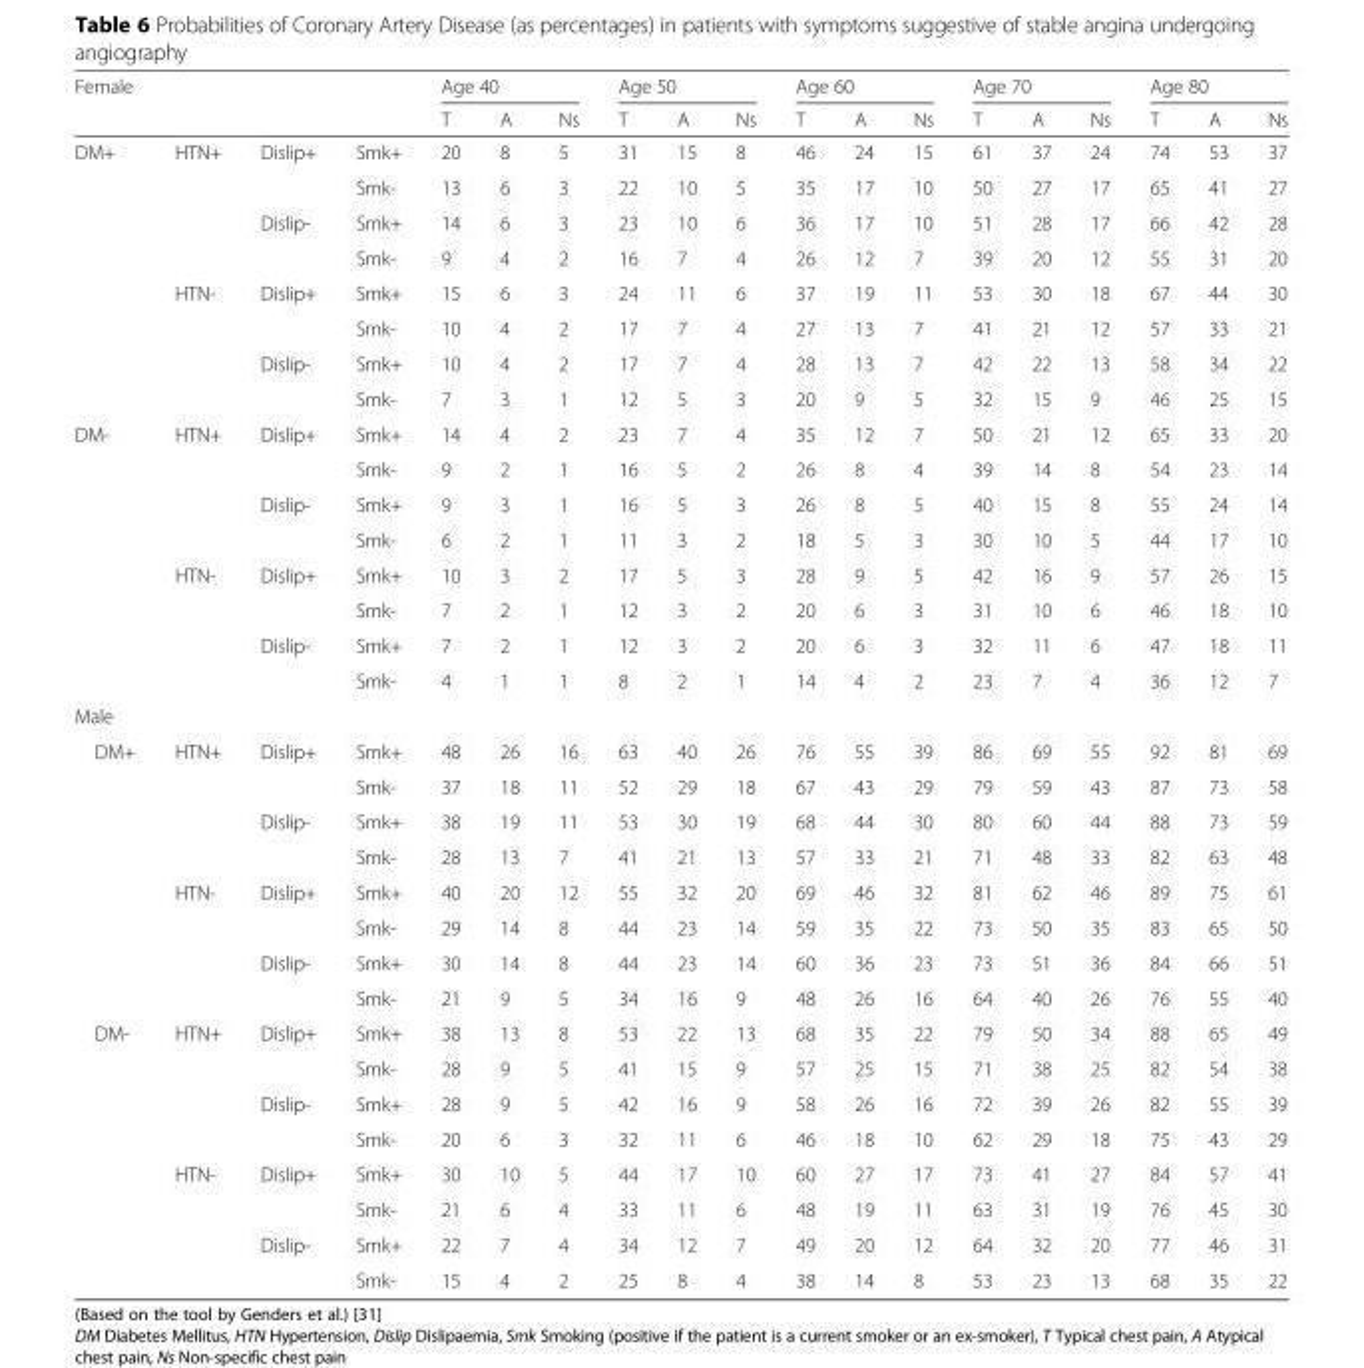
<table><thead><tr><td colspan="4">Female</td><td colspan="3">Age 40</td><td colspan="3">Age 50</td><td colspan="3">Age 60</td><td colspan="3">Age 70</td><td colspan="3">Age 80</td></tr><tr><td></td><td></td><td></td><td></td><td>T</td><td>A</td><td>Ns</td><td>T</td><td>A</td><td>Ns</td><td>T</td><td>A</td><td>Ns</td><td>T</td><td>A</td><td>Ns</td><td>T</td><td>A</td><td>Ns</td></tr></thead><tbody><tr><td rowspan="8">DM+</td><td rowspan="4">HTN+</td><td rowspan="2">Dislip+</td><td>Smk+</td><td>20</td><td>8</td><td>5</td><td>31</td><td>15</td><td>8</td><td>46</td><td>24</td><td>15</td><td>61</td><td>37</td><td>24</td><td>74</td><td>53</td><td>37</td></tr><tr><td>Smk-</td><td>13</td><td>6</td><td>3</td><td>22</td><td>10</td><td>5</td><td>35</td><td>17</td><td>10</td><td>50</td><td>27</td><td>17</td><td>65</td><td>41</td><td>27</td></tr><tr><td rowspan="2">Dislip-</td><td>Smk+</td><td>14</td><td>6</td><td>3</td><td>23</td><td>10</td><td>6</td><td>36</td><td>17</td><td>10</td><td>51</td><td>28</td><td>17</td><td>66</td><td>42</td><td>28</td></tr><tr><td>Smk-</td><td>9</td><td>4</td><td>2</td><td>16</td><td>7</td><td>4</td><td>26</td><td>12</td><td>7</td><td>39</td><td>20</td><td>12</td><td>55</td><td>31</td><td>20</td></tr><tr><td rowspan="4">HTN-</td><td rowspan="2">Dislip+</td><td>Smk+</td><td>15</td><td>6</td><td>3</td><td>24</td><td>11</td><td>6</td><td>37</td><td>19</td><td>11</td><td>53</td><td>30</td><td>18</td><td>67</td><td>44</td><td>30</td></tr><tr><td>Smk-</td><td>10</td><td>4</td><td>2</td><td>17</td><td>7</td><td>4</td><td>27</td><td>13</td><td>7</td><td>41</td><td>21</td><td>12</td><td>57</td><td>33</td><td>21</td></tr><tr><td rowspan="2">Dislip-</td><td>Smk+</td><td>10</td><td>4</td><td>2</td><td>17</td><td>7</td><td>4</td><td>28</td><td>13</td><td>7</td><td>42</td><td>22</td><td>13</td><td>58</td><td>34</td><td>22</td></tr><tr><td>Smk-</td><td>7</td><td>3</td><td>1</td><td>12</td><td>5</td><td>3</td><td>20</td><td>9</td><td>5</td><td>32</td><td>15</td><td>9</td><td>46</td><td>25</td><td>15</td></tr><tr><td rowspan="8">DM-</td><td rowspan="4">HTN+</td><td rowspan="2">Dislip+</td><td>Smk+</td><td>14</td><td>4</td><td>2</td><td>23</td><td>7</td><td>4</td><td>35</td><td>12</td><td>7</td><td>50</td><td>21</td><td>12</td><td>65</td><td>33</td><td>20</td></tr><tr><td>Smk-</td><td>9</td><td>2</td><td>1</td><td>16</td><td>5</td><td>2</td><td>26</td><td>8</td><td>4</td><td>39</td><td>14</td><td>8</td><td>54</td><td>23</td><td>14</td></tr><tr><td rowspan="2">Dislip-</td><td>Smk+</td><td>9</td><td>3</td><td>1</td><td>16</td><td>5</td><td>3</td><td>26</td><td>8</td><td>5</td><td>40</td><td>15</td><td>8</td><td>55</td><td>24</td><td>14</td></tr><tr><td>Smk-</td><td>6</td><td>2</td><td>1</td><td>11</td><td>3</td><td>2</td><td>18</td><td>5</td><td>3</td><td>30</td><td>10</td><td>5</td><td>44</td><td>17</td><td>10</td></tr><tr><td rowspan="4">HTN-</td><td rowspan="2">Dislip+</td><td>Smk+</td><td>10</td><td>3</td><td>2</td><td>17</td><td>5</td><td>3</td><td>28</td><td>9</td><td>5</td><td>42</td><td>16</td><td>9</td><td>57</td><td>26</td><td>15</td></tr><tr><td>Smk-</td><td>7</td><td>2</td><td>1</td><td>12</td><td>3</td><td>2</td><td>20</td><td>6</td><td>3</td><td>31</td><td>10</td><td>6</td><td>46</td><td>18</td><td>10</td></tr><tr><td rowspan="2">Dislip-</td><td>Smk+</td><td>7</td><td>2</td><td>1</td><td>12</td><td>3</td><td>2</td><td>20</td><td>6</td><td>3</td><td>32</td><td>11</td><td>6</td><td>47</td><td>18</td><td>11</td></tr><tr><td>Smk-</td><td>4</td><td>1</td><td>1</td><td>8</td><td>2</td><td>1</td><td>14</td><td>4</td><td>2</td><td>23</td><td>7</td><td>4</td><td>36</td><td>12</td><td>7</td></tr><tr><td colspan="19">Male</td></tr><tr><td rowspan="8">DM+</td><td rowspan="4">HTN+</td><td rowspan="2">Dislip+</td><td>Smk+</td><td>48</td><td>26</td><td>16</td><td>63</td><td>40</td><td>26</td><td>76</td><td>55</td><td>39</td><td>86</td><td>69</td><td>55</td><td>92</td><td>81</td><td>69</td></tr><tr><td>Smk-</td><td>37</td><td>18</td><td>11</td><td>52</td><td>29</td><td>18</td><td>67</td><td>43</td><td>29</td><td>79</td><td>59</td><td>43</td><td>87</td><td>73</td><td>58</td></tr><tr><td rowspan="2">Dislip-</td><td>Smk+</td><td>38</td><td>19</td><td>11</td><td>53</td><td>30</td><td>19</td><td>68</td><td>44</td><td>30</td><td>80</td><td>60</td><td>44</td><td>88</td><td>73</td><td>59</td></tr><tr><td>Smk-</td><td>28</td><td>13</td><td>7</td><td>41</td><td>21</td><td>13</td><td>57</td><td>33</td><td>21</td><td>71</td><td>48</td><td>33</td><td>82</td><td>63</td><td>48</td></tr><tr><td rowspan="4">HTN-</td><td rowspan="2">Dislip+</td><td>Smk+</td><td>40</td><td>20</td><td>12</td><td>55</td><td>32</td><td>20</td><td>69</td><td>46</td><td>32</td><td>81</td><td>62</td><td>46</td><td>89</td><td>75</td><td>61</td></tr><tr><td>Smk-</td><td>29</td><td>14</td><td>8</td><td>44</td><td>23</td><td>14</td><td>59</td><td>35</td><td>22</td><td>73</td><td>50</td><td>35</td><td>83</td><td>65</td><td>50</td></tr><tr><td rowspan="2">Dislip-</td><td>Smk+</td><td>30</td><td>14</td><td>8</td><td>44</td><td>23</td><td>14</td><td>60</td><td>36</td><td>23</td><td>73</td><td>51</td><td>36</td><td>84</td><td>66</td><td>51</td></tr><tr><td>Smk-</td><td>21</td><td>9</td><td>5</td><td>34</td><td>16</td><td>9</td><td>48</td><td>26</td><td>16</td><td>64</td><td>40</td><td>26</td><td>76</td><td>55</td><td>40</td></tr><tr><td rowspan="8">DM-</td><td rowspan="4">HTN+</td><td rowspan="2">Dislip+</td><td>Smk+</td><td>38</td><td>13</td><td>8</td><td>53</td><td>22</td><td>13</td><td>68</td><td>35</td><td>22</td><td>79</td><td>50</td><td>34</td><td>88</td><td>65</td><td>49</td></tr><tr><td>Smk-</td><td>28</td><td>9</td><td>5</td><td>41</td><td>15</td><td>9</td><td>57</td><td>25</td><td>15</td><td>71</td><td>38</td><td>25</td><td>82</td><td>54</td><td>38</td></tr><tr><td rowspan="2">Dislip-</td><td>Smk+</td><td>28</td><td>9</td><td>5</td><td>42</td><td>16</td><td>9</td><td>58</td><td>26</td><td>16</td><td>72</td><td>39</td><td>26</td><td>82</td><td>55</td><td>39</td></tr><tr><td>Smk-</td><td>20</td><td>6</td><td>3</td><td>32</td><td>11</td><td>6</td><td>46</td><td>18</td><td>10</td><td>62</td><td>29</td><td>18</td><td>75</td><td>43</td><td>29</td></tr><tr><td rowspan="4">HTN-</td><td rowspan="2">Dislip+</td><td>Smk+</td><td>30</td><td>10</td><td>5</td><td>44</td><td>17</td><td>10</td><td>60</td><td>27</td><td>17</td><td>73</td><td>41</td><td>27</td><td>84</td><td>57</td><td>41</td></tr><tr><td>Smk-</td><td>21</td><td>6</td><td>4</td><td>33</td><td>11</td><td>6</td><td>48</td><td>19</td><td>11</td><td>63</td><td>31</td><td>19</td><td>76</td><td>45</td><td>30</td></tr><tr><td rowspan="2">Dislip-</td><td>Smk+</td><td>22</td><td>7</td><td>4</td><td>34</td><td>12</td><td>7</td><td>49</td><td>20</td><td>12</td><td>64</td><td>32</td><td>20</td><td>77</td><td>46</td><td>31</td></tr><tr><td>Smk-</td><td>15</td><td>4</td><td>2</td><td>25</td><td>8</td><td>4</td><td>38</td><td>14</td><td>8</td><td>53</td><td>23</td><td>13</td><td>68</td><td>35</td><td>22</td></tr></tbody></table>